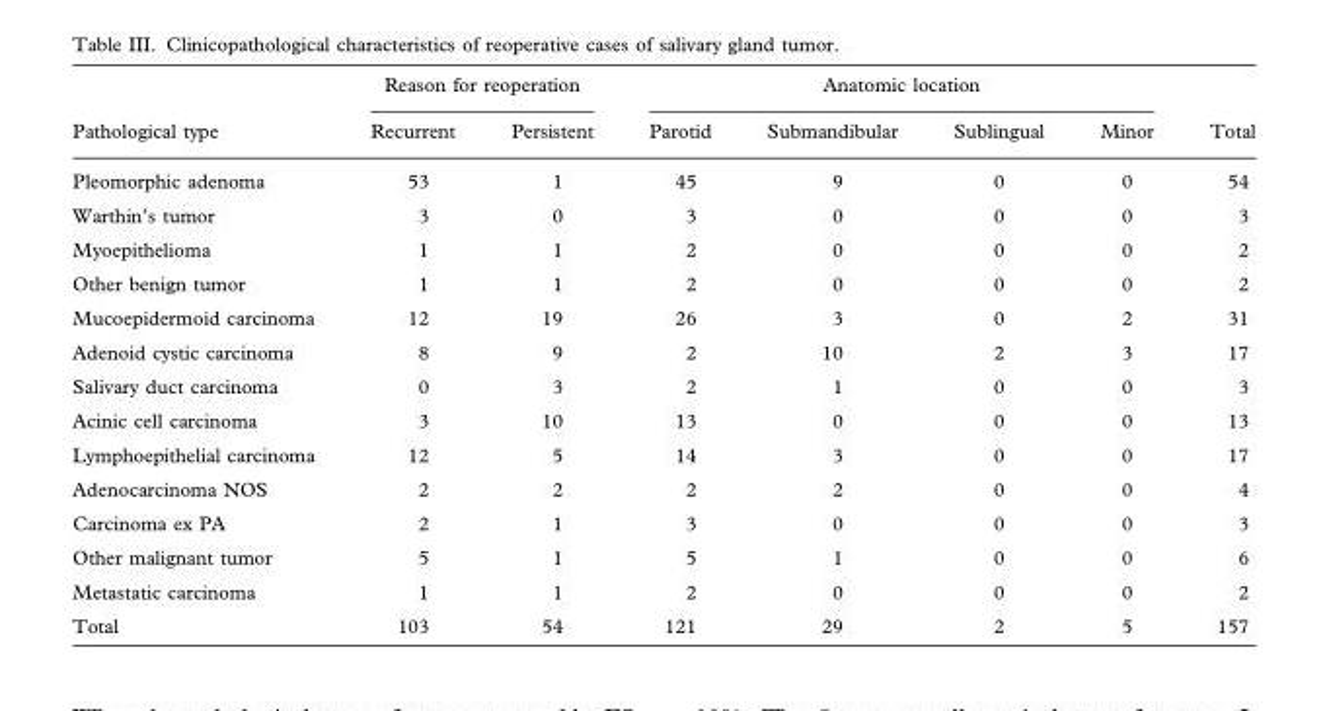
<table><thead><tr><td rowspan="2">Pathological type</td><td colspan="2">Reason for reoperation</td><td colspan="4">Anatomic location</td><td rowspan="2">Total</td></tr><tr><td>Recurrent</td><td>Persistent</td><td>Parotid</td><td>Submandibular</td><td>Sublingual</td><td>Minor</td></tr></thead><tbody><tr><td>Pleomorphic adenoma</td><td>53</td><td>1</td><td>45</td><td>9</td><td>0</td><td>0</td><td>54</td></tr><tr><td>Warthin’s tumor</td><td>3</td><td>0</td><td>3</td><td>0</td><td>0</td><td>0</td><td>3</td></tr><tr><td>Myoepithelioma</td><td>1</td><td>1</td><td>2</td><td>0</td><td>0</td><td>0</td><td>2</td></tr><tr><td>Other benign tumor</td><td>1</td><td>1</td><td>2</td><td>0</td><td>0</td><td>0</td><td>2</td></tr><tr><td>Mucoepidermoid carcinoma</td><td>12</td><td>19</td><td>26</td><td>3</td><td>0</td><td>2</td><td>31</td></tr><tr><td>Adenoid cystic carcinoma</td><td>8</td><td>9</td><td>2</td><td>10</td><td>2</td><td>3</td><td>17</td></tr><tr><td>Salivary duct carcinoma</td><td>0</td><td>3</td><td>2</td><td>1</td><td>0</td><td>0</td><td>3</td></tr><tr><td>Acinic cell carcinoma</td><td>3</td><td>10</td><td>13</td><td>0</td><td>0</td><td>0</td><td>13</td></tr><tr><td>Lymphoepithelial carcinoma</td><td>12</td><td>5</td><td>14</td><td>3</td><td>0</td><td>0</td><td>17</td></tr><tr><td>Adenocarcinoma NOS</td><td>2</td><td>2</td><td>2</td><td>2</td><td>0</td><td>0</td><td>4</td></tr><tr><td>Carcinoma ex PA</td><td>2</td><td>1</td><td>3</td><td>0</td><td>0</td><td>0</td><td>3</td></tr><tr><td>Other malignant tumor</td><td>5</td><td>1</td><td>5</td><td>1</td><td>0</td><td>0</td><td>6</td></tr><tr><td>Metastatic carcinoma</td><td>1</td><td>1</td><td>2</td><td>0</td><td>0</td><td>0</td><td>2</td></tr><tr><td>Total</td><td>103</td><td>54</td><td>121</td><td>29</td><td>2</td><td>5</td><td>157</td></tr></tbody></table>